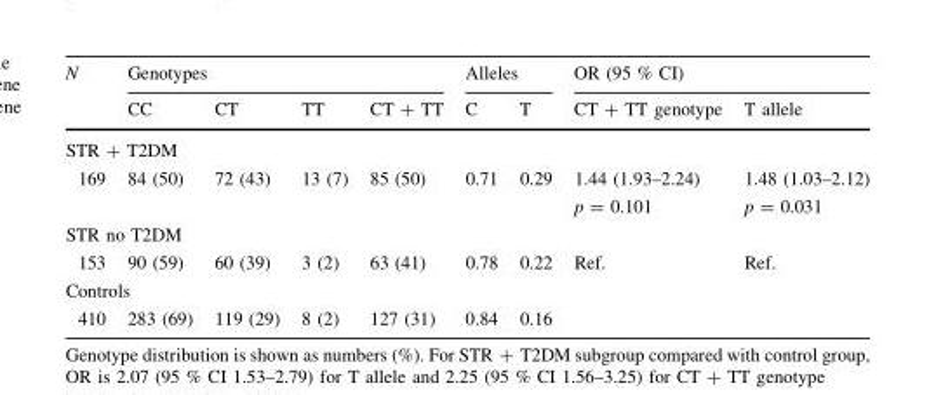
<table><thead><tr><td rowspan="2">N</td><td colspan="4">Genotypes</td><td colspan="2">Alleles</td><td colspan="2">OR (95 % CI)</td></tr><tr><td>CC</td><td>CT</td><td>TT</td><td>CT + TT</td><td>C</td><td>T</td><td>CT + TT genotype</td><td>T allele</td></tr></thead><tbody><tr><td colspan="9">STR + T2DM</td></tr><tr><td>169</td><td>84 (50)</td><td>72 (43)</td><td>13 (7)</td><td>85 (50)</td><td>0.71</td><td>0.29</td><td>1.44 (1.93–2.24) p = 0.101</td><td>1.48 (1.03–2.12) p = 0.031</td></tr><tr><td colspan="9">STR no T2DM</td></tr><tr><td>153</td><td>90 (59)</td><td>60 (39)</td><td>3 (2)</td><td>63 (41)</td><td>0.78</td><td>0.22</td><td>Ref.</td><td>Ref.</td></tr><tr><td colspan="9">Controls</td></tr><tr><td>410</td><td>283 (69)</td><td>119 (29)</td><td>8 (2)</td><td>127 (31)</td><td>0.84</td><td>0.16</td><td></td><td></td></tr></tbody></table>